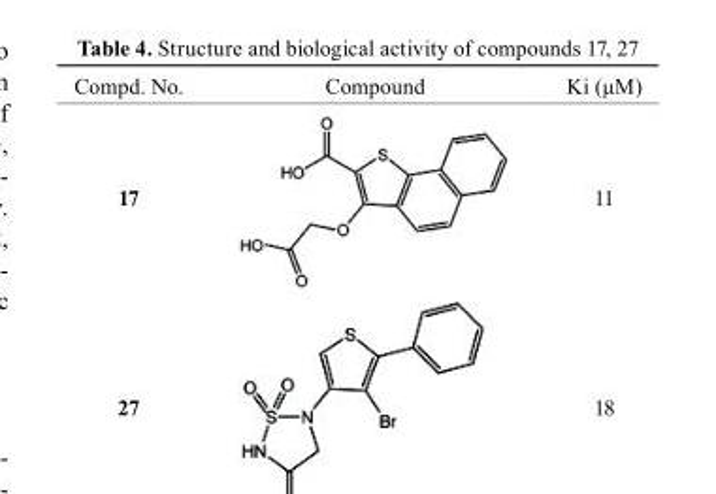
<table><thead><tr><td>Compd. No.</td><td>Compound</td><td>Ki (μM)</td></tr></thead><tbody><tr><td>17</td><td></td><td>11</td></tr><tr><td>27</td><td></td><td>18</td></tr></tbody></table>